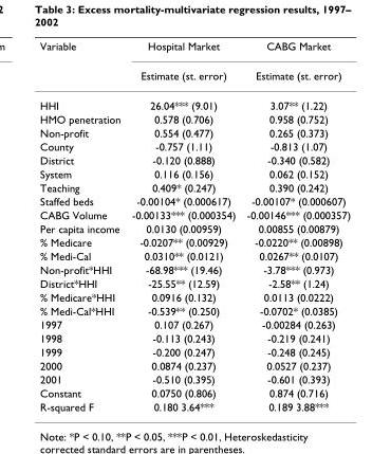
<table><thead><tr><td rowspan="2">Variable</td><td rowspan="2">Hospital Market Estimate (st. error)</td><td rowspan="2">CABG Market Estimate (st. error)</td></tr><tr></tr></thead><tbody><tr><td>HHI</td><td>26.04*** (9.01)</td><td>3.07** (1.22)</td></tr><tr><td>HMO penetration</td><td>0.578 (0.706)</td><td>0.958 (0.752)</td></tr><tr><td>Non-profit</td><td>0.554 (0.477)</td><td>0.265 (0.373)</td></tr><tr><td>County</td><td>-0.757 (1.11)</td><td>-0.813 (1.07)</td></tr><tr><td>District</td><td>-0.120 (0.888)</td><td>-0.340 (0.582)</td></tr><tr><td>System</td><td>0.116 (0.156)</td><td>0.062 (0.152)</td></tr><tr><td>Teaching</td><td>0.409* (0.247)</td><td>0.390 (0.242)</td></tr><tr><td>Staffed beds</td><td>-0.00104* (0.000617)</td><td>-0.00107* (0.000607)</td></tr><tr><td>CABG Volume</td><td>-0.00133*** (0.000354)</td><td>-0.00146*** (0.000357)</td></tr><tr><td>Per capita income</td><td>0.0130 (0.00959)</td><td>0.00855 (0.00879)</td></tr><tr><td>% Medicare</td><td>-0.0207** (0.00929)</td><td>-0.0220** (0.00898)</td></tr><tr><td>% Medi-Cal</td><td>0.0310** (0.0121)</td><td>0.0267** (0.0107)</td></tr><tr><td>Non-profit*HHI</td><td>-68.98*** (19.46)</td><td>-3.78*** (0.973)</td></tr><tr><td>District*HHI</td><td>-25.55** (12.59)</td><td>-2.58** (1.24)</td></tr><tr><td>% Medicare*HHI</td><td>0.0916 (0.132)</td><td>0.0113 (0.0222)</td></tr><tr><td>% Medi-Cal*HHI</td><td>-0.539** (0.250)</td><td>-0.0702* (0.0385)</td></tr><tr><td>1997</td><td>0.107 (0.267)</td><td>-0.00284 (0.263)</td></tr><tr><td>1998</td><td>-0.113 (0.243)</td><td>-0.219 (0.241)</td></tr><tr><td>1999</td><td>-0.200 (0.247)</td><td>-0.248 (0.245)</td></tr><tr><td>2000</td><td>0.0874 (0.237)</td><td>0.0527 (0.237)</td></tr><tr><td>2001</td><td>-0.510 (0.395)</td><td>-0.601 (0.393)</td></tr><tr><td>Constant</td><td>0.0750 (0.806)</td><td>0.874 (0.716)</td></tr><tr><td>R-squared F</td><td>0.180 3.64***</td><td>0.189 3.88***</td></tr></tbody></table>